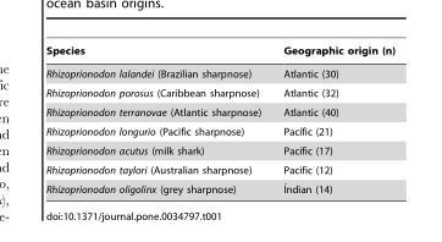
<table><thead><tr><td>Species</td><td>Geographic origin (n)</td></tr></thead><tbody><tr><td>Rhizoprionodon lalandei (Brazilian sharpnose)</td><td>Atlantic (30)</td></tr><tr><td>Rhizoprionodon porosus (Caribbean sharpnose)</td><td>Atlantic (32)</td></tr><tr><td>Rhizoprionodon terranovae (Atlantic sharpnose)</td><td>Atlantic (40)</td></tr><tr><td>Rhizoprionodon longurio (Pacific sharpnose)</td><td>Pacı´fic (21)</td></tr><tr><td>Rhizoprionodon acutus (milk shark)</td><td>Pacı´fic (17)</td></tr><tr><td>Rhizoprionodon taylori (Australian sharpnose)</td><td>Pacific (12)</td></tr><tr><td>Rhizoprionodon oligolinx (grey sharpnose)</td><td>I´ndian (14)</td></tr></tbody></table>